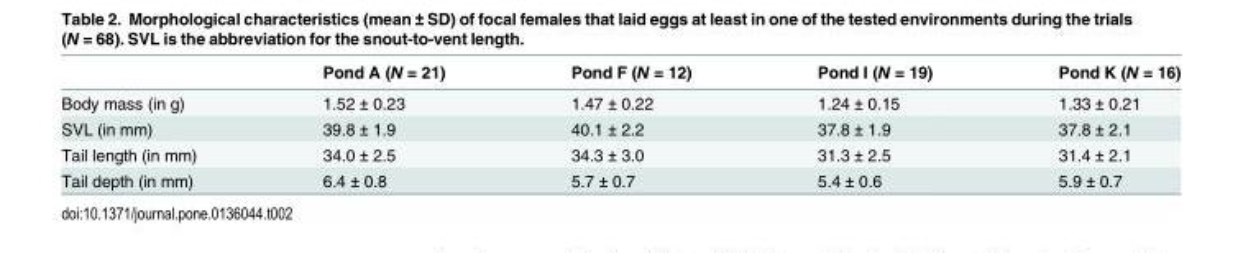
<table><thead><tr><td></td><td>Pond A (N = 21)</td><td>Pond F (N = 12)</td><td>Pond I (N = 19)</td><td>Pond K (N = 16)</td></tr></thead><tbody><tr><td>Body mass (in g)</td><td>1.52 ± 0.23</td><td>1.47 ± 0.22</td><td>1.24 ± 0.15</td><td>1.33 ± 0.21</td></tr><tr><td>SVL (in mm)</td><td>39.8 ± 1.9</td><td>40.1 ± 2.2</td><td>37.8 ± 1.9</td><td>37.8 ± 2.1</td></tr><tr><td>Tail length (in mm)</td><td>34.0 ± 2.5</td><td>34.3 ± 3.0</td><td>31.3 ± 2.5</td><td>31.4 ± 2.1</td></tr><tr><td>Tail depth (in mm)</td><td>6.4 ± 0.8</td><td>5.7 ± 0.7</td><td>5.4 ± 0.6</td><td>5.9 ± 0.7</td></tr></tbody></table>